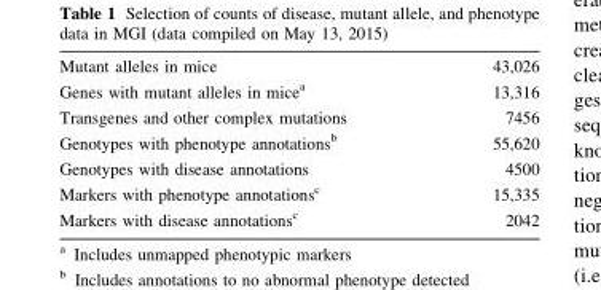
<table><tbody><tr><td>Mutant alleles in mice</td><td>43,026</td></tr><tr><td>Genes with mutant alleles in mice<sup>a</sup></td><td>13,316</td></tr><tr><td>Transgenes and other complex mutations</td><td>7456</td></tr><tr><td>Genotypes with phenotype annotations<sup>b</sup></td><td>55,620</td></tr><tr><td>Genotypes with disease annotations</td><td>4500</td></tr><tr><td>Markers with phenotype annotations<sup>c</sup></td><td>15,335</td></tr><tr><td>Markers with disease annotations<sup>c</sup></td><td>2042</td></tr></tbody></table>